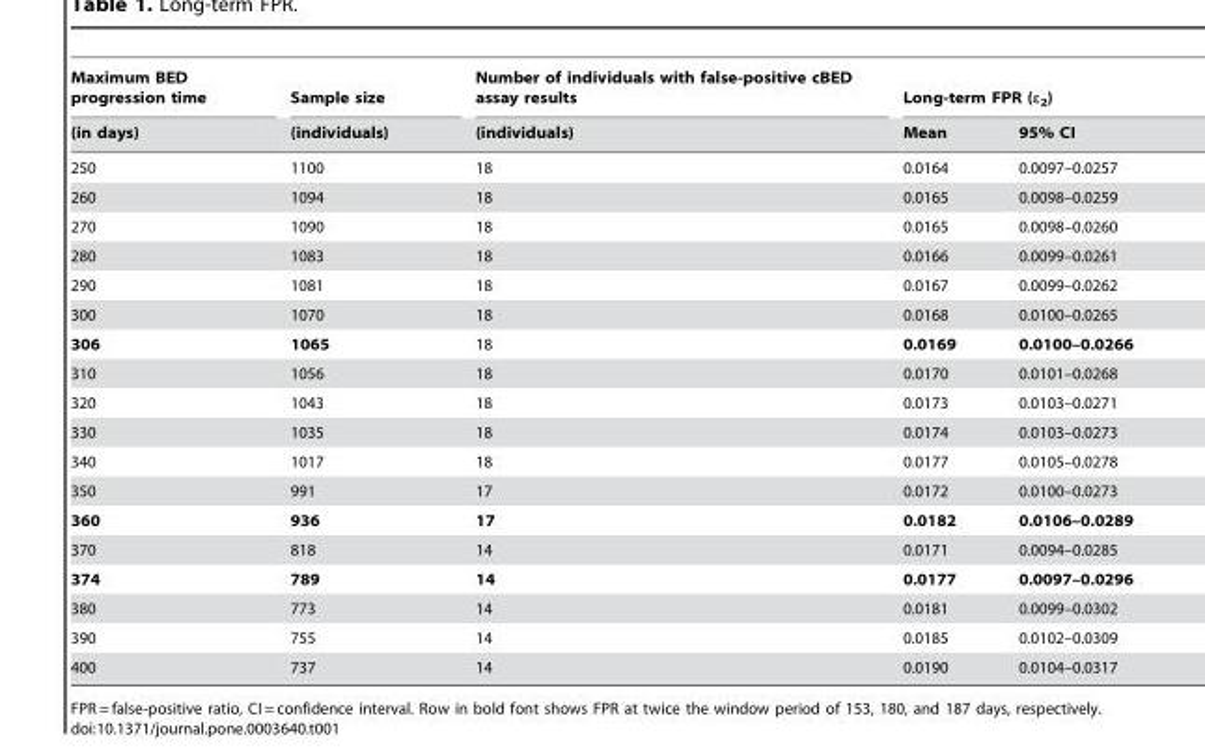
<table><thead><tr><td rowspan="2">Maximum BED progression time (in days)</td><td rowspan="2">Sample size (individuals)</td><td rowspan="2">Number of individuals with false-positive cBED assay results (individuals)</td><td colspan="2">Long-term FPR (ε<sub>2</sub>)</td></tr><tr><td>Mean</td><td>95% CI</td></tr></thead><tbody><tr><td>250</td><td>1100</td><td>18</td><td>0.0164</td><td>0.0097–0.0257</td></tr><tr><td>260</td><td>1094</td><td>18</td><td>0.0165</td><td>0.0098–0.0259</td></tr><tr><td>270</td><td>1090</td><td>18</td><td>0.0165</td><td>0.0098–0.0260</td></tr><tr><td>280</td><td>1083</td><td>18</td><td>0.0166</td><td>0.0099–0.0261</td></tr><tr><td>290</td><td>1081</td><td>18</td><td>0.0167</td><td>0.0099–0.0262</td></tr><tr><td>300</td><td>1070</td><td>18</td><td>0.0168</td><td>0.0100–0.0265</td></tr><tr><td>306</td><td>1065</td><td>18</td><td>0.0169</td><td>0.0100–0.0266</td></tr><tr><td>310</td><td>1056</td><td>18</td><td>0.0170</td><td>0.0101–0.0268</td></tr><tr><td>320</td><td>1043</td><td>18</td><td>0.0173</td><td>0.0103–0.0271</td></tr><tr><td>330</td><td>1035</td><td>18</td><td>0.0174</td><td>0.0103–0.0273</td></tr><tr><td>340</td><td>1017</td><td>18</td><td>0.0177</td><td>0.0105–0.0278</td></tr><tr><td>350</td><td>991</td><td>17</td><td>0.0172</td><td>0.0100–0.0273</td></tr><tr><td>360</td><td>936</td><td>17</td><td>0.0182</td><td>0.0106–0.0289</td></tr><tr><td>370</td><td>818</td><td>14</td><td>0.0171</td><td>0.0094–0.0285</td></tr><tr><td>374</td><td>789</td><td>14</td><td>0.0177</td><td>0.0097–0.0296</td></tr><tr><td>380</td><td>773</td><td>14</td><td>0.0181</td><td>0.0099–0.0302</td></tr><tr><td>390</td><td>755</td><td>14</td><td>0.0185</td><td>0.0102–0.0309</td></tr><tr><td>400</td><td>737</td><td>14</td><td>0.0190</td><td>0.0104–0.0317</td></tr></tbody></table>